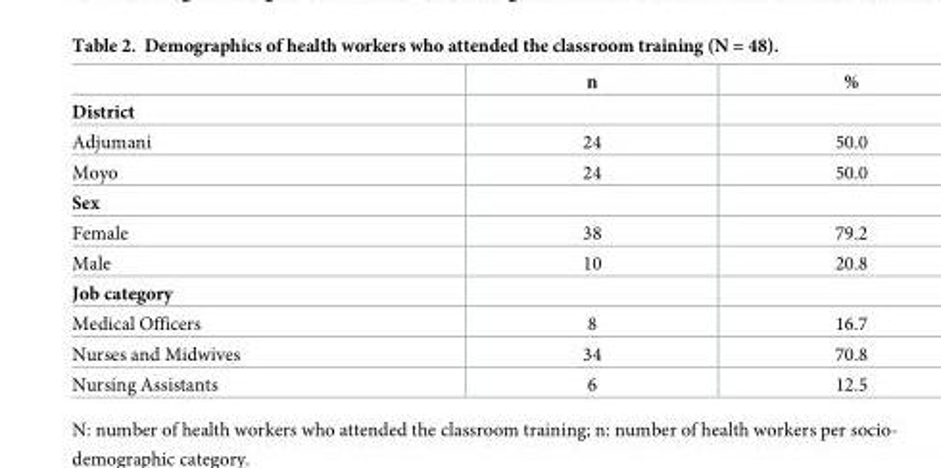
<table><thead><tr><td></td><td>n</td><td>%</td></tr></thead><tbody><tr><td colspan="3">District</td></tr><tr><td>Adjumani</td><td>24</td><td>50.0</td></tr><tr><td>Moyo</td><td>24</td><td>50.0</td></tr><tr><td colspan="3">Sex</td></tr><tr><td>Female</td><td>38</td><td>79.2</td></tr><tr><td>Male</td><td>10</td><td>20.8</td></tr><tr><td colspan="3">Job category</td></tr><tr><td>Medical Officers</td><td>8</td><td>16.7</td></tr><tr><td>Nurses and Midwives</td><td>34</td><td>70.8</td></tr><tr><td>Nursing Assistants</td><td>6</td><td>12.5</td></tr></tbody></table>